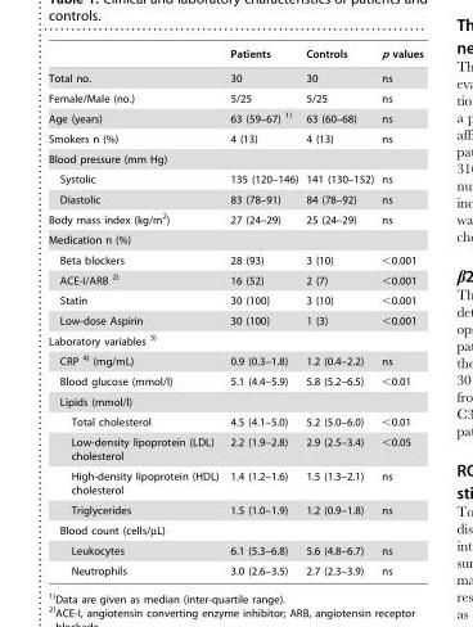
<table><thead><tr><td></td><td>Patients</td><td>Controls</td><td>p values</td></tr></thead><tbody><tr><td>Total no.</td><td>30</td><td>30</td><td>ns</td></tr><tr><td>Female/Male (no.)</td><td>5/25</td><td>5/25</td><td>ns</td></tr><tr><td>Age (years)</td><td>63 (59–67) 1)</td><td>63 (60–68)</td><td>ns</td></tr><tr><td>Smokers n (%)</td><td>4 (13)</td><td>4 (13)</td><td>ns</td></tr><tr><td colspan="4">Blood pressure (mm Hg)</td></tr><tr><td>Systolic</td><td>135 (120–146)</td><td>141 (130–152)</td><td>ns</td></tr><tr><td>Diastolic</td><td>83 (78–91)</td><td>84 (78–92)</td><td>ns</td></tr><tr><td>Body mass index (kg/m<sup>2</sup>)</td><td>27 (24–29)</td><td>25 (24–29)</td><td>ns</td></tr><tr><td colspan="4">Medication n (%)</td></tr><tr><td>Beta blockers</td><td>28 (93)</td><td>3 (10)</td><td>&lt;0.001</td></tr><tr><td>ACE-I/ARB 2)</td><td>16 (52)</td><td>2 (7)</td><td>&lt;0.001</td></tr><tr><td>Statin</td><td>30 (100)</td><td>3 (10)</td><td>&lt;0.001</td></tr><tr><td>Low-dose Aspirin</td><td>30 (100)</td><td>1 (3)</td><td>&lt;0.001</td></tr><tr><td colspan="4">Laboratory variables 3)</td></tr><tr><td>CRP 4) (mg/mL)</td><td>0.9 (0.3–1.8)</td><td>1.2 (0.4–2.2)</td><td>ns</td></tr><tr><td>Blood glucose (mmol/l)</td><td>5.1 (4.4–5.9)</td><td>5.8 (5.2–6.5)</td><td>&lt;0.01</td></tr><tr><td colspan="4">Lipids (mmol/l)</td></tr><tr><td>Total cholesterol</td><td>4.5 (4.1–5.0)</td><td>5.2 (5.0–6.0)</td><td>&lt;0.01</td></tr><tr><td>Low-density lipoprotein (LDL) cholesterol</td><td>2.2 (1.9–2.8)</td><td>2.9 (2.5–3.4)</td><td>&lt;0.05</td></tr><tr><td>High-density lipoprotein (HDL) cholesterol</td><td>1.4 (1.2–1.6)</td><td>1.5 (1.3–2.1)</td><td>ns</td></tr><tr><td>Triglycerides</td><td>1.5 (1.0–1.9)</td><td>1.2 (0.9–1.8)</td><td>ns</td></tr><tr><td colspan="4">Blood count (cells/µL)</td></tr><tr><td>Leukocytes</td><td>6.1 (5.3–6.8)</td><td>5.6 (4.8–6.7)</td><td>ns</td></tr><tr><td>Neutrophils</td><td>3.0 (2.6–3.5)</td><td>2.7 (2.3–3.9)</td><td>ns</td></tr></tbody></table>